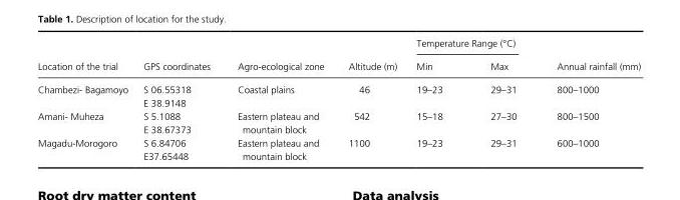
<table><thead><tr><td rowspan="2">Location of the trial</td><td rowspan="2">GPS coordinates</td><td rowspan="2">Agro- ecological zone</td><td rowspan="2">Altitude (m)</td><td colspan="2">Temperature Range (°C)</td><td rowspan="2">Annual rainfall (mm)</td></tr><tr><td>Min</td><td>Max</td></tr></thead><tbody><tr><td>Chambezi- Bagamoyo</td><td>S 06.55318 E 38.9148</td><td>Coastal plains</td><td>46</td><td>19–23</td><td>29–31</td><td>800–1000</td></tr><tr><td>Amani- Muheza</td><td>S 5.1088 E 38.67373</td><td>Eastern plateau and mountain block</td><td>542</td><td>15–18</td><td>27–30</td><td>800–1500</td></tr><tr><td>Magadu- Morogoro</td><td>S 6.84706 E37.65448</td><td>Eastern plateau and mountain block</td><td>1100</td><td>19–23</td><td>29–31</td><td>600–1000</td></tr></tbody></table>